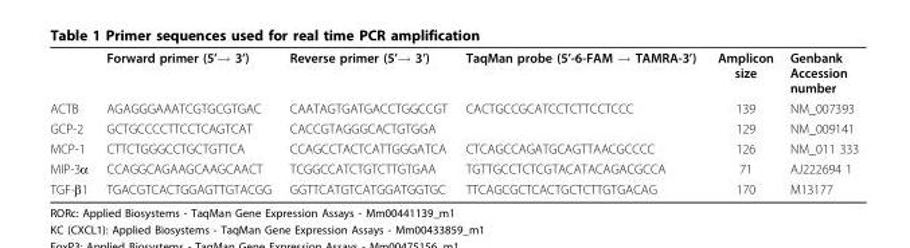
<table><thead><tr><td></td><td>Forward primer (5’→ 3’)</td><td>Reverse primer (5’→ 3’)</td><td>TaqMan probe (5’-6-FAM → TAMRA-3’)</td><td>Amplicon size</td><td>Genbank Accession number</td></tr></thead><tbody><tr><td>ACTB</td><td>AGAGGGAAATCGTGCGTGAC</td><td>CAATAGTGATGACCTGGCCGT</td><td>CACTGCCGCATCCTCTTCCTCCC</td><td>139</td><td>NM_007393</td></tr><tr><td>GCP-2</td><td>GCTGCCCCTTCCTCAGTCAT</td><td>CACCGTAGGGCACTGTGGA</td><td></td><td>129</td><td>NM_009141</td></tr><tr><td>MCP-1</td><td>CTTCTGGGCCTGCTGTTCA</td><td>CCAGCCTACTCATTGGGATCA</td><td>CTCAGCCAGATGCAGTTAACGCCCC</td><td>126</td><td>NM_011 333</td></tr><tr><td>MIP-3α</td><td>CCAGGCAGAAGCAAGCAACT</td><td>TCGGCCATCTGTCTTGTGAA</td><td>TGTTGCCTCTCGTACATACAGACGCCA</td><td>71</td><td>AJ222694 1</td></tr><tr><td>TGF-β1</td><td>TGACGTCACTGGAGTTGTACGG</td><td>GGTTCATGTCATGGATGGTGC</td><td>TTCAGCGCTCACTGCTCTTGTGACAG</td><td>170</td><td>M13177</td></tr></tbody></table>